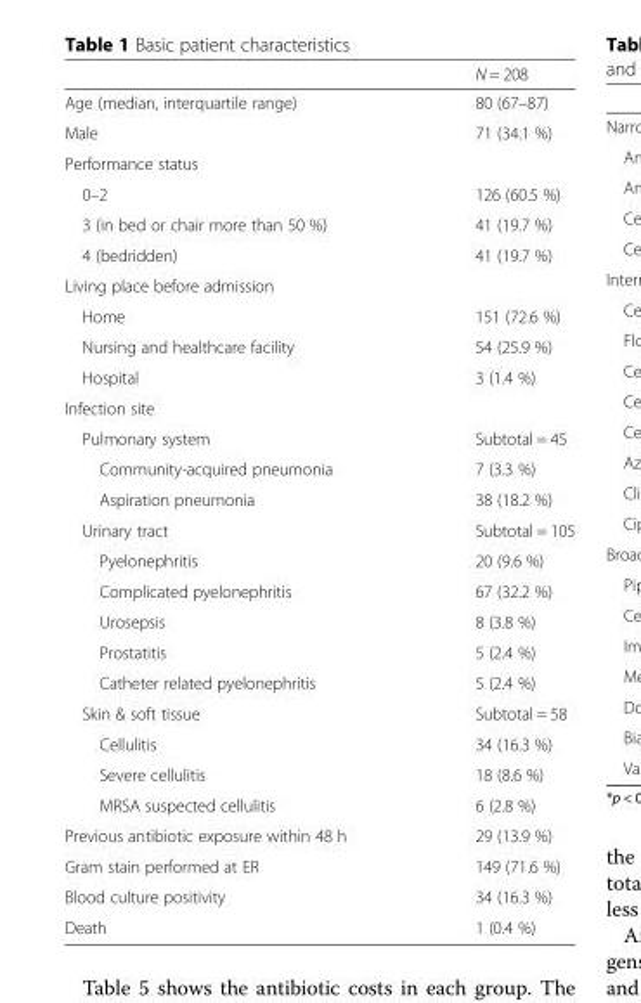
<table><thead><tr><td></td><td>N = 208</td></tr></thead><tbody><tr><td>Age (median, interquartile range)</td><td>80 (67–87)</td></tr><tr><td>Male</td><td>71 (34.1 %)</td></tr><tr><td colspan="2">Performance status</td></tr><tr><td>0–2</td><td>126 (60.5 %)</td></tr><tr><td>3 (in bed or chair more than 50 %)</td><td>41 (19.7 %)</td></tr><tr><td>4 (bedridden)</td><td>41 (19.7 %)</td></tr><tr><td colspan="2">Living place before admission</td></tr><tr><td>Home</td><td>151 (72.6 %)</td></tr><tr><td>Nursing and healthcare facility</td><td>54 (25.9 %)</td></tr><tr><td>Hospital</td><td>3 (1.4 %)</td></tr><tr><td colspan="2">Infection site</td></tr><tr><td>Pulmonary system</td><td>Subtotal = 45</td></tr><tr><td>Community-acquired pneumonia</td><td>7 (3.3 %)</td></tr><tr><td>Aspiration pneumonia</td><td>38 (18.2 %)</td></tr><tr><td>Urinary tract</td><td>Subtotal = 105</td></tr><tr><td>Pyelonephritis</td><td>20 (9.6 %)</td></tr><tr><td>Complicated pyelonephritis</td><td>67 (32.2 %)</td></tr><tr><td>Urosepsis</td><td>8 (3.8 %)</td></tr><tr><td>Prostatitis</td><td>5 (2.4 %)</td></tr><tr><td>Catheter related pyelonephritis</td><td>5 (2.4 %)</td></tr><tr><td>Skin &amp; soft tissue</td><td>Subtotal = 58</td></tr><tr><td>Cellulitis</td><td>34 (16.3 %)</td></tr><tr><td>Severe cellulitis</td><td>18 (8.6 %)</td></tr><tr><td>MRSA suspected cellulitis</td><td>6 (2.8 %)</td></tr><tr><td>Previous antibiotic exposure within 48 h</td><td>29 (13.9 %)</td></tr><tr><td>Gram stain performed at ER</td><td>149 (71.6 %)</td></tr><tr><td>Blood culture positivity</td><td>34 (16.3 %)</td></tr><tr><td>Death</td><td>1 (0.4 %)</td></tr></tbody></table>